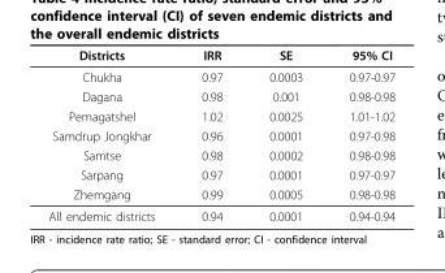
<table><thead><tr><td>Districts</td><td>IRR</td><td>SE</td><td>95% CI</td></tr></thead><tbody><tr><td>Chukha</td><td>0.97</td><td>0.0003</td><td>0.97-0.97</td></tr><tr><td>Dagana</td><td>0.98</td><td>0.001</td><td>0.98-0.98</td></tr><tr><td>Pemagatshel</td><td>1.02</td><td>0.0025</td><td>1.01-1.02</td></tr><tr><td>Samdrup Jongkhar</td><td>0.96</td><td>0.0001</td><td>0.97-0.98</td></tr><tr><td>Samtse</td><td>0.98</td><td>0.0002</td><td>0.98-0.98</td></tr><tr><td>Sarpang</td><td>0.97</td><td>0.0001</td><td>0.97-0.97</td></tr><tr><td>Zhemgang</td><td>0.99</td><td>0.0005</td><td>0.98-0.98</td></tr><tr><td>All endemic districts</td><td>0.94</td><td>0.0001</td><td>0.94-0.94</td></tr></tbody></table>